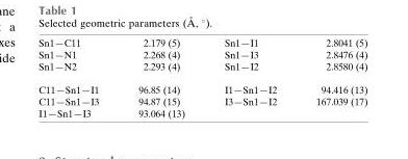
<table><tbody><tr><td>Sn1—C11</td><td>2.179 (5)</td><td>Sn1—I1</td><td>2.8041 (5)</td></tr><tr><td>Sn1—N1</td><td>2.268 (4)</td><td>Sn1—I3</td><td>2.8476 (4)</td></tr><tr><td>Sn1—N2</td><td>2.293 (4)</td><td>Sn1—I2</td><td>2.8580 (4)</td></tr><tr><td>C11—Sn1—I1</td><td>96.85 (14)</td><td>I1—Sn1—I2</td><td>94.416 (13)</td></tr><tr><td>C11—Sn1—I3</td><td>94.87 (15)</td><td>I3—Sn1—I2</td><td>167.039 (17)</td></tr><tr><td>I1—Sn1—I3</td><td>93.064 (13)</td><td></td><td></td></tr></tbody></table>